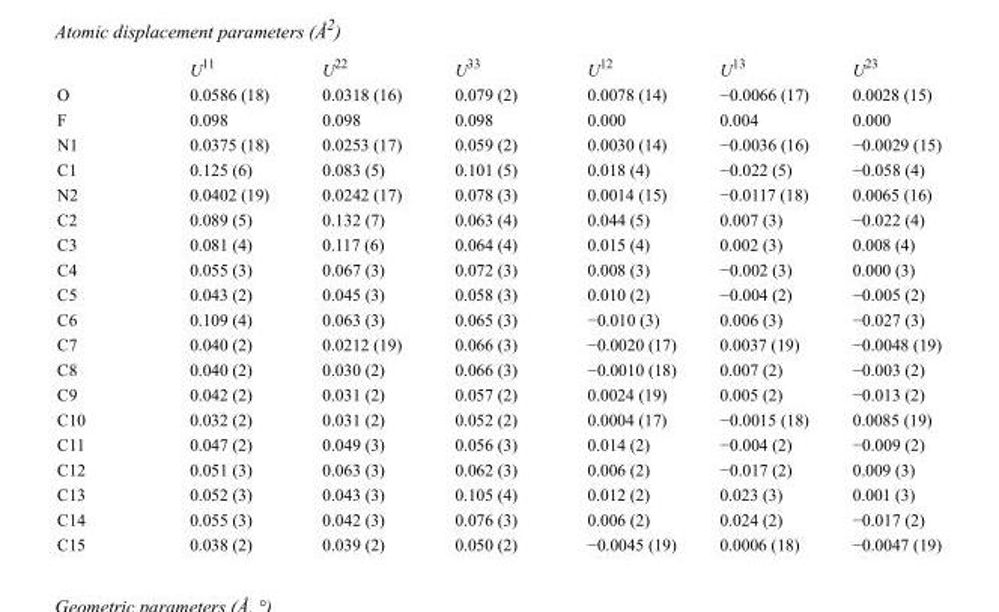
<table><thead><tr><td></td><td>U<sup>11</sup></td><td>U<sup>22</sup></td><td>U<sup>33</sup></td><td>U<sup>12</sup></td><td>U<sup>13</sup></td><td>U<sup>23</sup></td></tr></thead><tbody><tr><td>O</td><td>0.0586 (18)</td><td>0.0318 (16)</td><td>0.079 (2)</td><td>0.0078 (14)</td><td>−0.0066 (17)</td><td>0.0028 (15)</td></tr><tr><td>F</td><td>0.098</td><td>0.098</td><td>0.098</td><td>0.000</td><td>0.004</td><td>0.000</td></tr><tr><td>N1</td><td>0.0375 (18)</td><td>0.0253 (17)</td><td>0.059 (2)</td><td>0.0030 (14)</td><td>−0.0036 (16)</td><td>−0.0029 (15)</td></tr><tr><td>C1</td><td>0.125 (6)</td><td>0.083 (5)</td><td>0.101 (5)</td><td>0.018 (4)</td><td>−0.022 (5)</td><td>−0.058 (4)</td></tr><tr><td>N2</td><td>0.0402 (19)</td><td>0.0242 (17)</td><td>0.078 (3)</td><td>0.0014 (15)</td><td>−0.0117 (18)</td><td>0.0065 (16)</td></tr><tr><td>C2</td><td>0.089 (5)</td><td>0.132 (7)</td><td>0.063 (4)</td><td>0.044 (5)</td><td>0.007 (3)</td><td>−0.022 (4)</td></tr><tr><td>C3</td><td>0.081 (4)</td><td>0.117 (6)</td><td>0.064 (4)</td><td>0.015 (4)</td><td>0.002 (3)</td><td>0.008 (4)</td></tr><tr><td>C4</td><td>0.055 (3)</td><td>0.067 (3)</td><td>0.072 (3)</td><td>0.008 (3)</td><td>−0.002 (3)</td><td>0.000 (3)</td></tr><tr><td>C5</td><td>0.043 (2)</td><td>0.045 (3)</td><td>0.058 (3)</td><td>0.010 (2)</td><td>−0.004 (2)</td><td>−0.005 (2)</td></tr><tr><td>C6</td><td>0.109 (4)</td><td>0.063 (3)</td><td>0.065 (3)</td><td>−0.010 (3)</td><td>0.006 (3)</td><td>−0.027 (3)</td></tr><tr><td>C7</td><td>0.040 (2)</td><td>0.0212 (19)</td><td>0.066 (3)</td><td>−0.0020 (17)</td><td>0.0037 (19)</td><td>−0.0048 (19)</td></tr><tr><td>C8</td><td>0.040 (2)</td><td>0.030 (2)</td><td>0.066 (3)</td><td>−0.0010 (18)</td><td>0.007 (2)</td><td>−0.003 (2)</td></tr><tr><td>C9</td><td>0.042 (2)</td><td>0.031 (2)</td><td>0.057 (2)</td><td>0.0024 (19)</td><td>0.005 (2)</td><td>−0.013 (2)</td></tr><tr><td>C10</td><td>0.032 (2)</td><td>0.031 (2)</td><td>0.052 (2)</td><td>0.0004 (17)</td><td>−0.0015 (18)</td><td>0.0085 (19)</td></tr><tr><td>C11</td><td>0.047 (2)</td><td>0.049 (3)</td><td>0.056 (3)</td><td>0.014 (2)</td><td>−0.004 (2)</td><td>−0.009 (2)</td></tr><tr><td>C12</td><td>0.051 (3)</td><td>0.063 (3)</td><td>0.062 (3)</td><td>0.006 (2)</td><td>−0.017 (2)</td><td>0.009 (3)</td></tr><tr><td>C13</td><td>0.052 (3)</td><td>0.043 (3)</td><td>0.105 (4)</td><td>0.012 (2)</td><td>0.023 (3)</td><td>0.001 (3)</td></tr><tr><td>C14</td><td>0.055 (3)</td><td>0.042 (3)</td><td>0.076 (3)</td><td>0.006 (2)</td><td>0.024 (2)</td><td>−0.017 (2)</td></tr><tr><td>C15</td><td>0.038 (2)</td><td>0.039 (2)</td><td>0.050 (2)</td><td>−0.0045 (19)</td><td>0.0006 (18)</td><td>−0.0047 (19)</td></tr></tbody></table>